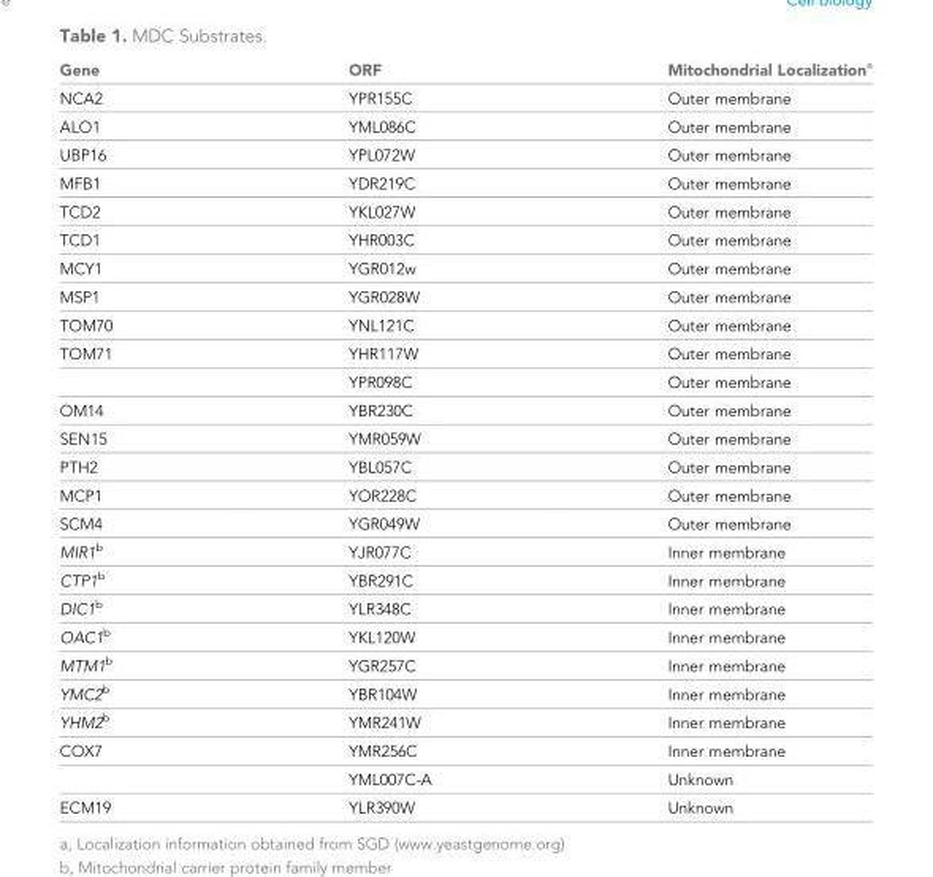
<table><thead><tr><td>Gene</td><td>ORF</td><td>Mitochondrial Localization<sup>a</sup></td></tr></thead><tbody><tr><td>NCA2</td><td>YPR155C</td><td>Outer membrane</td></tr><tr><td>ALO1</td><td>YML086C</td><td>Outer membrane</td></tr><tr><td>UBP16</td><td>YPL072W</td><td>Outer membrane</td></tr><tr><td>MFB1</td><td>YDR219C</td><td>Outer membrane</td></tr><tr><td>TCD2</td><td>YKL027W</td><td>Outer membrane</td></tr><tr><td>TCD1</td><td>YHR003C</td><td>Outer membrane</td></tr><tr><td>MCY1</td><td>YGR012w</td><td>Outer membrane</td></tr><tr><td>MSP1</td><td>YGR028W</td><td>Outer membrane</td></tr><tr><td>TOM70</td><td>YNL121C</td><td>Outer membrane</td></tr><tr><td rowspan="2">TOM71</td><td>YHR117W</td><td>Outer membrane</td></tr><tr><td>YPR098C</td><td>Outer membrane</td></tr><tr><td>OM14</td><td>YBR230C</td><td>Outer membrane</td></tr><tr><td>SEN15</td><td>YMR059W</td><td>Outer membrane</td></tr><tr><td>PTH2</td><td>YBL057C</td><td>Outer membrane</td></tr><tr><td>MCP1</td><td>YOR228C</td><td>Outer membrane</td></tr><tr><td>SCM4</td><td>YGR049W</td><td>Outer membrane</td></tr><tr><td>MIR1<sup>b</sup></td><td>YJR077C</td><td>Inner membrane</td></tr><tr><td>CTP1<sup>b</sup></td><td>YBR291C</td><td>Inner membrane</td></tr><tr><td>DIC1<sup>b</sup></td><td>YLR348C</td><td>Inner membrane</td></tr><tr><td>OAC1<sup>b</sup></td><td>YKL120W</td><td>Inner membrane</td></tr><tr><td>MTM1<sup>b</sup></td><td>YGR257C</td><td>Inner membrane</td></tr><tr><td>YMC2<sup>b</sup></td><td>YBR104W</td><td>Inner membrane</td></tr><tr><td>YHM2<sup>b</sup></td><td>YMR241W</td><td>Inner membrane</td></tr><tr><td rowspan="2">COX7</td><td>YMR256C</td><td>Inner membrane</td></tr><tr><td>YML007C-A</td><td>Unknown</td></tr><tr><td>ECM19</td><td>YLR390W</td><td>Unknown</td></tr></tbody></table>